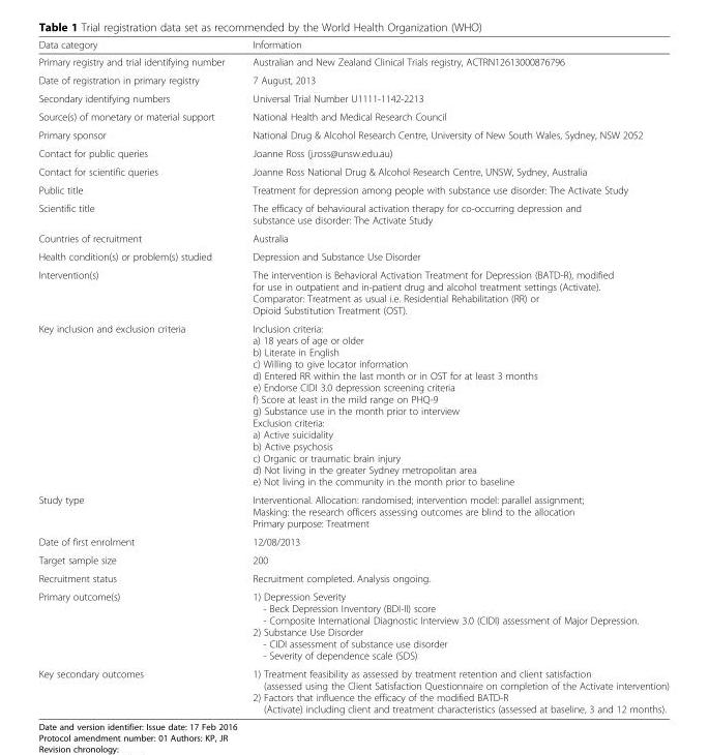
<table><thead><tr><td>Data category</td><td>Information</td></tr></thead><tbody><tr><td>Primary registry and trial identifying number</td><td>Australian and New Zealand Clinical Trials registry, ACTRN12613000876796</td></tr><tr><td>Date of registration in primary registry</td><td>7 August, 2013</td></tr><tr><td>Secondary identifying numbers</td><td>Universal Trial Number U1111-1142-2213</td></tr><tr><td>Source(s) of monetary or material support</td><td>National Health and Medical Research Council</td></tr><tr><td>Primary sponsor</td><td>National Drug &amp; Alcohol Research Centre, University of New South Wales, Sydney, NSW 2052</td></tr><tr><td>Contact for public queries</td><td>Joanne Ross (j.ross@unsw.edu.au)</td></tr><tr><td>Contact for scientific queries</td><td>Joanne Ross National Drug &amp; Alcohol Research Centre, UNSW, Sydney, Australia</td></tr><tr><td>Public title</td><td>Treatment for depression among people with substance use disorder: The Activate Study</td></tr><tr><td>Scientific title</td><td>The efficacy of behavioural activation therapy for co-occurring depression and substance use disorder: The Activate Study</td></tr><tr><td>Countries of recruitment</td><td>Australia</td></tr><tr><td>Health condition(s) or problem(s) studied</td><td>Depression and Substance Use Disorder</td></tr><tr><td>Intervention(s)</td><td>The intervention is Behavioral Activation Treatment for Depression (BATD-R), modified for use in outpatient and in-patient drug and alcohol treatment settings (Activate). Comparator: Treatment as usual i.e. Residential Rehabilitation (RR) or Opioid Substitution Treatment (OST).</td></tr><tr><td>Key inclusion and exclusion criteria</td><td>Inclusion criteria: a) 18 years of age or older b) Literate in English c) Willing to give locator information d) Entered RR within the last month or in OST for at least 3 months e) Endorse CIDI 3.0 depression screening criteria f) Score at least in the mild range on PHQ-9 g) Substance use in the month prior to interview Exclusion criteria: a) Active suicidality b) Active psychosis c) Organic or traumatic brain injury d) Not living in the greater Sydney metropolitan area e) Not living in the community in the month prior to baseline</td></tr><tr><td>Study type</td><td>Interventional. Allocation: randomised; intervention model: parallel assignment; Masking: the research officers assessing outcomes are blind to the allocation Primary purpose: Treatment</td></tr><tr><td>Date of first enrolment</td><td>12/08/2013</td></tr><tr><td>Target sample size</td><td>200</td></tr><tr><td>Recruitment status</td><td>Recruitment completed. Analysis ongoing.</td></tr><tr><td>Primary outcome(s)</td><td>1) Depression Severity - Beck Depression Inventory (BDI-II) score - Composite International Diagnostic Interview 3.0 (CIDI) assessment of Major Depression. 2) Substance Use Disorder - CIDI assessment of substance use disorder - Severity of dependence scale (SDS)</td></tr><tr><td>Key secondary outcomes</td><td>1) Treatment feasibility as assessed by treatment retention and client satisfaction (assessed using the Client Satisfaction Questionnaire on completion of the Activate intervention) 2) Factors that influence the efficacy of the modified BATD-R (Activate) including client and treatment characteristics (assessed at baseline, 3 and 12 months).</td></tr></tbody></table>